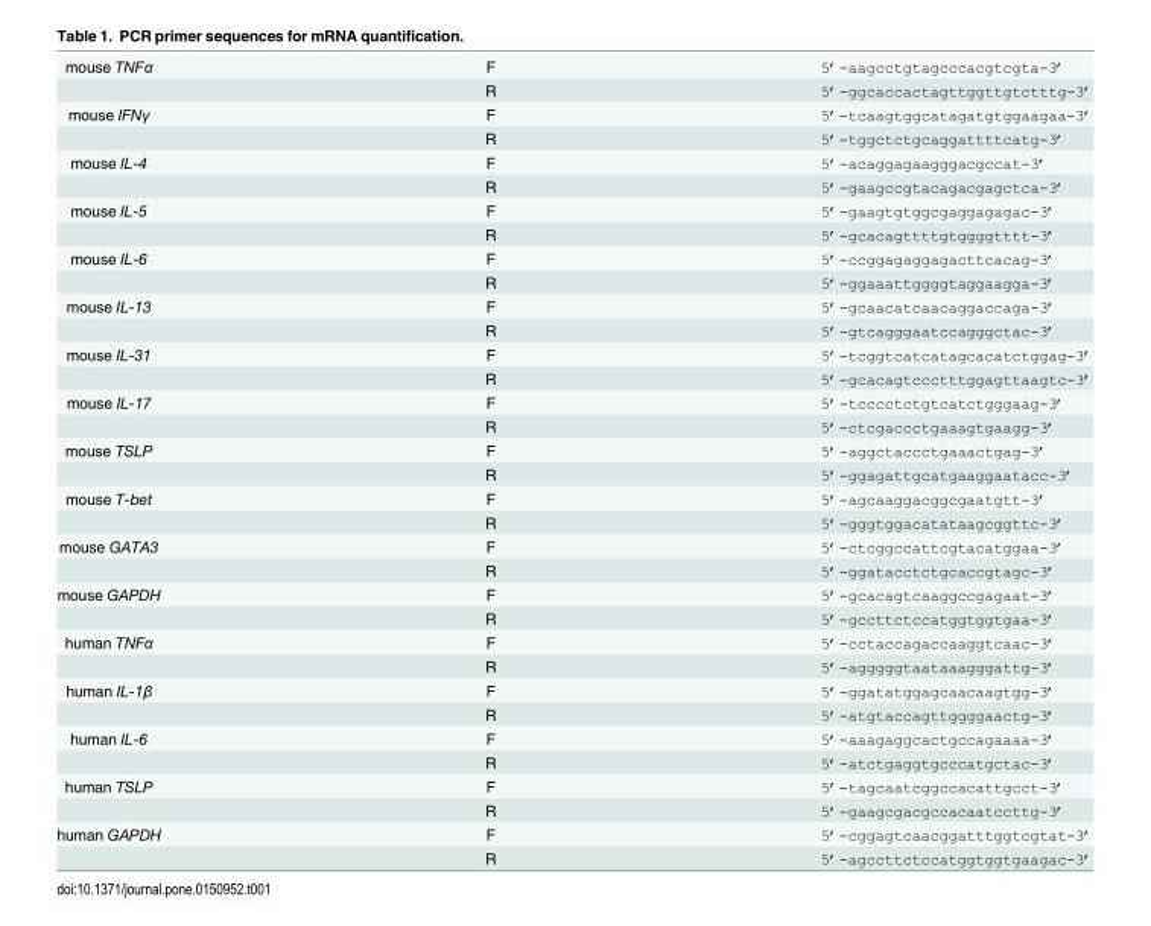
<table><tbody><tr><td rowspan="2">mouse TNFα</td><td>F</td><td>5’-aagcctgtagcccacgtcgta-3’</td></tr><tr><td>R</td><td>5’-ggcaccactagttggttgtctttg-3’</td></tr><tr><td rowspan="2">mouse IFNγ</td><td>F</td><td>5’-tcaagtggcatagatgtggaagaa-3’</td></tr><tr><td>R</td><td>5’-tggctctgcaggattttcatg-3’</td></tr><tr><td rowspan="2">mouse IL-4</td><td>F</td><td>5’-acaggagaagggacgccat-3’</td></tr><tr><td>R</td><td>5’-gaagccgtacagacgagctca-3’</td></tr><tr><td rowspan="2">mouse IL-5</td><td>F</td><td>5’-gaagtgtggcgaggagagac-3’</td></tr><tr><td>R</td><td>5’-gcacagttttgtggggtttt-3’</td></tr><tr><td rowspan="2">mouse IL-6</td><td>F</td><td>5’-ccggagaggagacttcacag-3’</td></tr><tr><td>R</td><td>5’-ggaaattggggtaggaagga-3’</td></tr><tr><td rowspan="2">mouse IL-13</td><td>F</td><td>5’-gcaacatcaacaggaccaga-3’</td></tr><tr><td>R</td><td>5’-gtcagggaatccagggctac-3’</td></tr><tr><td rowspan="2">mouse IL-31</td><td>F</td><td>5’-tcggtcatcatagcacatctggag-3’</td></tr><tr><td>R</td><td>5’-gcacagtccctttggagttaagtc-3’</td></tr><tr><td rowspan="2">mouse IL-17</td><td>F</td><td>5’-tcccctctgtcatctgggaag-3’</td></tr><tr><td>R</td><td>5’-ctcgaccctgaaagtgaagg-3’</td></tr><tr><td rowspan="2">mouse TSLP</td><td>F</td><td>5’-aggctaccctgaaactgag-3’</td></tr><tr><td>R</td><td>5’-ggagattgcatgaaggaatacc-3’</td></tr><tr><td rowspan="2">mouse T-bet</td><td>F</td><td>5’-agcaaggacggcgaatgtt-3’</td></tr><tr><td>R</td><td>5’-gggtggacatataagcggttc-3’</td></tr><tr><td rowspan="2">mouse GATA3</td><td>F</td><td>5’-ctcggccattcgtacatggaa-3’</td></tr><tr><td>R</td><td>5’-ggatacctctgcaccgtagc-3’</td></tr><tr><td rowspan="2">mouse GAPDH</td><td>F</td><td>5’-gcacagtcaaggccgagaat-3’</td></tr><tr><td>R</td><td>5’-gccttctccatggtggtgaa-3’</td></tr><tr><td rowspan="2">human TNFα</td><td>F</td><td>5’-cctaccagaccaaggtcaac-3’</td></tr><tr><td>R</td><td>5’-agggggtaataaagggattg-3’</td></tr><tr><td rowspan="2">human IL-1β</td><td>F</td><td>5’-ggatatggagcaacaagtgg-3’</td></tr><tr><td>R</td><td>5’-atgtaccagttggggaactg-3’</td></tr><tr><td rowspan="2">human IL-6</td><td>F</td><td>5’-aaagaggcactgccagaaaa-3’</td></tr><tr><td>R</td><td>5’-atctgaggtgcccatgctac-3’</td></tr><tr><td rowspan="2">human TSLP</td><td>F</td><td>5’-tagcaatcggccacattgcct-3’</td></tr><tr><td>R</td><td>5’-gaagcgacgccacaatccttg-3’</td></tr><tr><td rowspan="2">human GAPDH</td><td>F</td><td>5’-cggagtcaacggatttggtcgtat-3’</td></tr><tr><td>R</td><td>5’-agccttctccatggtggtgaagac-3’</td></tr></tbody></table>